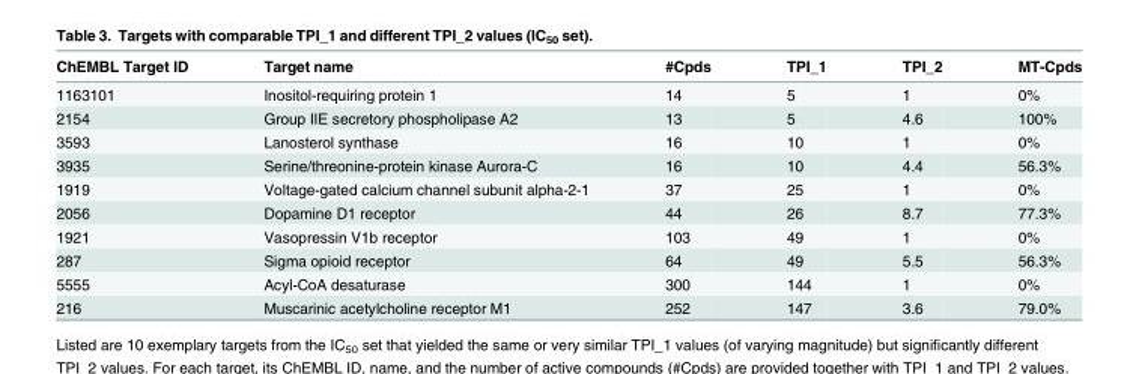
<table><thead><tr><td>ChEMBL Target ID</td><td>Target name</td><td>#Cpds</td><td>TPI_1</td><td>TPI_2</td><td>MT-Cpds</td></tr></thead><tbody><tr><td>1163101</td><td>Inositol-requiring protein 1</td><td>14</td><td>5</td><td>1</td><td>0%</td></tr><tr><td>2154</td><td>Group IIE secretory phospholipase A2</td><td>13</td><td>5</td><td>4.6</td><td>100%</td></tr><tr><td>3593</td><td>Lanosterol synthase</td><td>16</td><td>10</td><td>1</td><td>0%</td></tr><tr><td>3935</td><td>Serine/threonine-protein kinase Aurora-C</td><td>16</td><td>10</td><td>4.4</td><td>56.3%</td></tr><tr><td>1919</td><td>Voltage-gated calcium channel subunit alpha-2-1</td><td>37</td><td>25</td><td>1</td><td>0%</td></tr><tr><td>2056</td><td>Dopamine D1 receptor</td><td>44</td><td>26</td><td>8.7</td><td>77.3%</td></tr><tr><td>1921</td><td>Vasopressin V1b receptor</td><td>103</td><td>49</td><td>1</td><td>0%</td></tr><tr><td>287</td><td>Sigma opioid receptor</td><td>64</td><td>49</td><td>5.5</td><td>56.3%</td></tr><tr><td>5555</td><td>Acyl-CoA desaturase</td><td>300</td><td>144</td><td>1</td><td>0%</td></tr><tr><td>216</td><td>Muscarinic acetylcholine receptor M1</td><td>252</td><td>147</td><td>3.6</td><td>79.0%</td></tr></tbody></table>